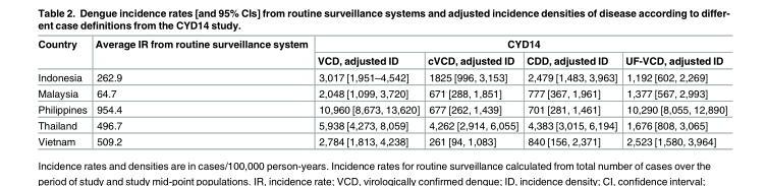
<table><thead><tr><td rowspan="2">Country</td><td rowspan="2">Average IR from routine surveillance system</td><td colspan="4">CYD14</td></tr><tr><td>VCD, adjusted ID</td><td>cVCD, adjusted ID</td><td>CDD, adjusted ID</td><td>UF-VCD, adjusted ID</td></tr></thead><tbody><tr><td>Indonesia</td><td>262.9</td><td>3,017 [1,951–4,542]</td><td>1825 [996, 3,153]</td><td>2,479 [1,483, 3,963]</td><td>1,192 [602, 2,269]</td></tr><tr><td>Malaysia</td><td>64.7</td><td>2,048 [1,099, 3,720]</td><td>671 [288, 1,851]</td><td>777 [367, 1,961]</td><td>1,377 [567, 2,993]</td></tr><tr><td>Philippines</td><td>954.4</td><td>10,960 [8,673, 13,620]</td><td>677 [262, 1,439]</td><td>701 [281, 1,461]</td><td>10,290 [8,055, 12,890]</td></tr><tr><td>Thailand</td><td>496.7</td><td>5,938 [4,273, 8,059]</td><td>4,262 [2,914, 6,055]</td><td>4,383 [3,015, 6,194]</td><td>1,676 [808, 3,065]</td></tr><tr><td>Vietnam</td><td>509.2</td><td>2,784 [1,813, 4,238]</td><td>261 [94, 1,083]</td><td>840 [156, 2,371]</td><td>2,523 [1,580, 3,964]</td></tr></tbody></table>